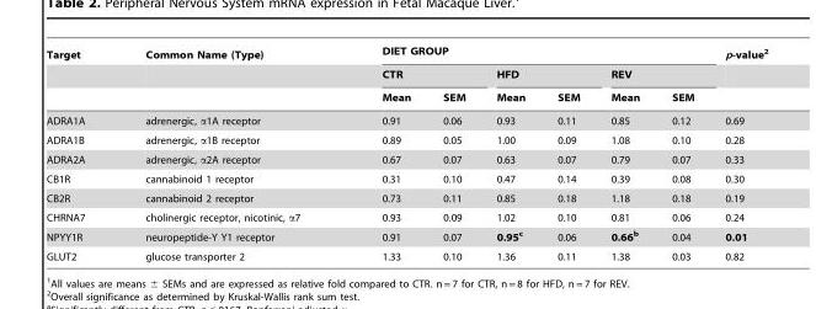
<table><thead><tr><td rowspan="3">Target</td><td rowspan="3">Common Name (Type)</td><td colspan="6">DIET GROUP</td><td rowspan="3">p-value<sup>2</sup></td></tr><tr><td colspan="2">CTR</td><td colspan="2">HFD</td><td colspan="2">REV</td></tr><tr><td>Mean</td><td>SEM</td><td>Mean</td><td>SEM</td><td>Mean</td><td>SEM</td></tr></thead><tbody><tr><td>ADRA1A</td><td>adrenergic, α1A receptor</td><td>0.91</td><td>0.06</td><td>0.93</td><td>0.11</td><td>0.85</td><td>0.12</td><td>0.69</td></tr><tr><td>ADRA1B</td><td>adrenergic, α1B receptor</td><td>0.89</td><td>0.05</td><td>1.00</td><td>0.09</td><td>1.08</td><td>0.10</td><td>0.28</td></tr><tr><td>ADRA2A</td><td>adrenergic, α2A receptor</td><td>0.67</td><td>0.07</td><td>0.63</td><td>0.07</td><td>0.79</td><td>0.07</td><td>0.33</td></tr><tr><td>CB1R</td><td>cannabinoid 1 receptor</td><td>0.31</td><td>0.10</td><td>0.47</td><td>0.14</td><td>0.39</td><td>0.08</td><td>0.30</td></tr><tr><td>CB2R</td><td>cannabinoid 2 receptor</td><td>0.73</td><td>0.11</td><td>0.85</td><td>0.18</td><td>1.18</td><td>0.18</td><td>0.19</td></tr><tr><td>CHRNA7</td><td>cholinergic receptor, nicotinic, α7</td><td>0.93</td><td>0.09</td><td>1.02</td><td>0.10</td><td>0.81</td><td>0.06</td><td>0.24</td></tr><tr><td>NPYY1R</td><td>neuropeptide-Y Y1 receptor</td><td>0.91</td><td>0.07</td><td>0.95c</td><td>0.06</td><td>0.66b</td><td>0.04</td><td>0.01</td></tr><tr><td>GLUT2</td><td>glucose transporter 2</td><td>1.33</td><td>0.10</td><td>1.36</td><td>0.11</td><td>1.38</td><td>0.03</td><td>0.82</td></tr></tbody></table>